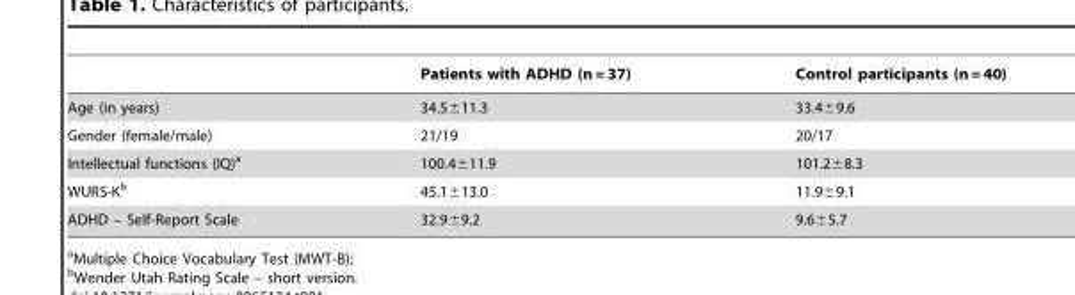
<table><thead><tr><td></td><td>Patients with ADHD (n = 37)</td><td>Control participants (n = 40)</td></tr></thead><tbody><tr><td>Age (in years)</td><td>34.5±11.3</td><td>33.4±9.6</td></tr><tr><td>Gender (female/male)</td><td>21/19</td><td>20/17</td></tr><tr><td>Intellectual functions (IQ)<sup>a</sup></td><td>100.4±11.9</td><td>101.2±8.3</td></tr><tr><td>WURS-K<sup>b</sup></td><td>45.1±13.0</td><td>11.9±9.1</td></tr><tr><td>ADHD – Self-Report Scale</td><td>32.9±9.2</td><td>9.6±5.7</td></tr></tbody></table>